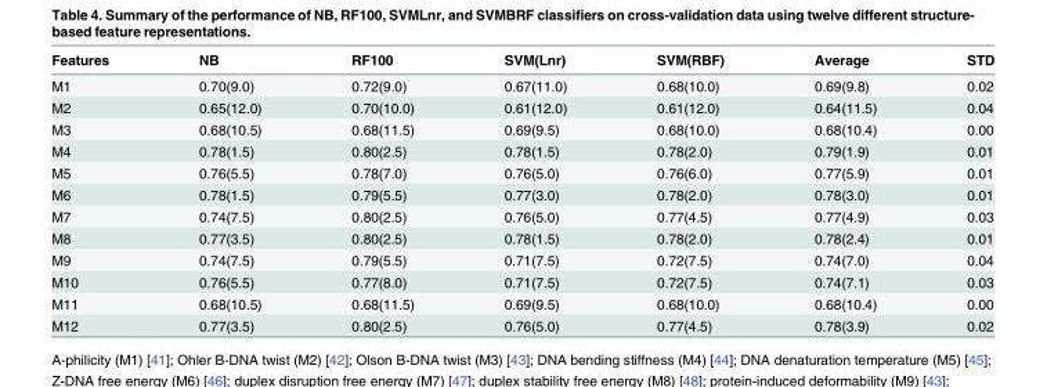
<table><thead><tr><td>Features</td><td>NB</td><td>RF100</td><td>SVM(Lnr)</td><td>SVM(RBF)</td><td>Average</td><td>STD</td></tr></thead><tbody><tr><td>M1</td><td>0.70(9.0)</td><td>0.72(9.0)</td><td>0.67(11.0)</td><td>0.68(10.0)</td><td>0.69(9.8)</td><td>0.02</td></tr><tr><td>M2</td><td>0.65(12.0)</td><td>0.70(10.0)</td><td>0.61(12.0)</td><td>0.61(12.0)</td><td>0.64(11.5)</td><td>0.04</td></tr><tr><td>M3</td><td>0.68(10.5)</td><td>0.68(11.5)</td><td>0.69(9.5)</td><td>0.68(10.0)</td><td>0.68(10.4)</td><td>0.00</td></tr><tr><td>M4</td><td>0.78(1.5)</td><td>0.80(2.5)</td><td>0.78(1.5)</td><td>0.78(2.0)</td><td>0.79(1.9)</td><td>0.01</td></tr><tr><td>M5</td><td>0.76(5.5)</td><td>0.78(7.0)</td><td>0.76(5.0)</td><td>0.76(6.0)</td><td>0.77(5.9)</td><td>0.01</td></tr><tr><td>M6</td><td>0.78(1.5)</td><td>0.79(5.5)</td><td>0.77(3.0)</td><td>0.78(2.0)</td><td>0.78(3.0)</td><td>0.01</td></tr><tr><td>M7</td><td>0.74(7.5)</td><td>0.80(2.5)</td><td>0.76(5.0)</td><td>0.77(4.5)</td><td>0.77(4.9)</td><td>0.03</td></tr><tr><td>M8</td><td>0.77(3.5)</td><td>0.80(2.5)</td><td>0.78(1.5)</td><td>0.78(2.0)</td><td>0.78(2.4)</td><td>0.01</td></tr><tr><td>M9</td><td>0.74(7.5)</td><td>0.79(5.5)</td><td>0.71(7.5)</td><td>0.72(7.5)</td><td>0.74(7.0)</td><td>0.04</td></tr><tr><td>M10</td><td>0.76(5.5)</td><td>0.77(8.0)</td><td>0.71(7.5)</td><td>0.72(7.5)</td><td>0.74(7.1)</td><td>0.03</td></tr><tr><td>M11</td><td>0.68(10.5)</td><td>0.68(11.5)</td><td>0.69(9.5)</td><td>0.68(10.0)</td><td>0.68(10.4)</td><td>0.00</td></tr><tr><td>M12</td><td>0.77(3.5)</td><td>0.80(2.5)</td><td>0.76(5.0)</td><td>0.77(4.5)</td><td>0.78(3.9)</td><td>0.02</td></tr></tbody></table>